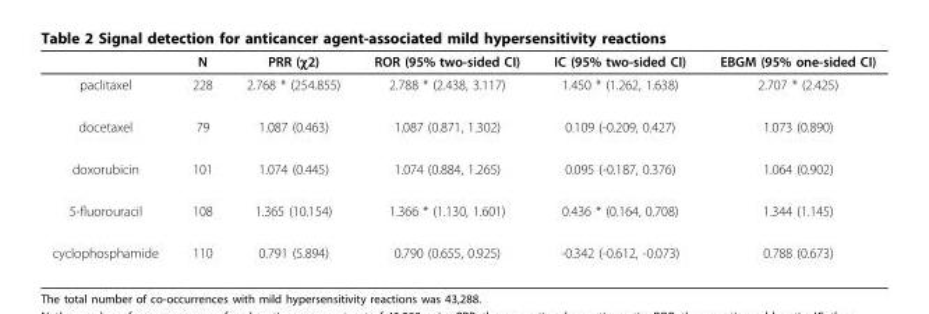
<table><thead><tr><td></td><td>N</td><td>PRR (χ2)</td><td>ROR (95% two-sided CI)</td><td>IC (95% two-sided CI)</td><td>EBGM (95% one-sided CI)</td></tr></thead><tbody><tr><td>paclitaxel</td><td>228</td><td>2.768 * (254.855)</td><td>2.788 * (2.438, 3.117)</td><td>1.450 * (1.262, 1.638)</td><td>2.707 * (2.425)</td></tr><tr><td>docetaxel</td><td>79</td><td>1.087 (0.463)</td><td>1.087 (0.871, 1.302)</td><td>0.109 (-0.209, 0.427)</td><td>1.073 (0.890)</td></tr><tr><td>doxorubicin</td><td>101</td><td>1.074 (0.445)</td><td>1.074 (0.884, 1.265)</td><td>0.095 (-0.187, 0.376)</td><td>1.064 (0.902)</td></tr><tr><td>5-fluorouracil</td><td>108</td><td>1.365 (10.154)</td><td>1.366 * (1.130, 1.601)</td><td>0.436 * (0.164, 0.708)</td><td>1.344 (1.145)</td></tr><tr><td>cyclophosphamide</td><td>110</td><td>0.791 (5.894)</td><td>0.790 (0.655, 0.925)</td><td>-0.342 (-0.612, -0.073)</td><td>0.788 (0.673)</td></tr></tbody></table>